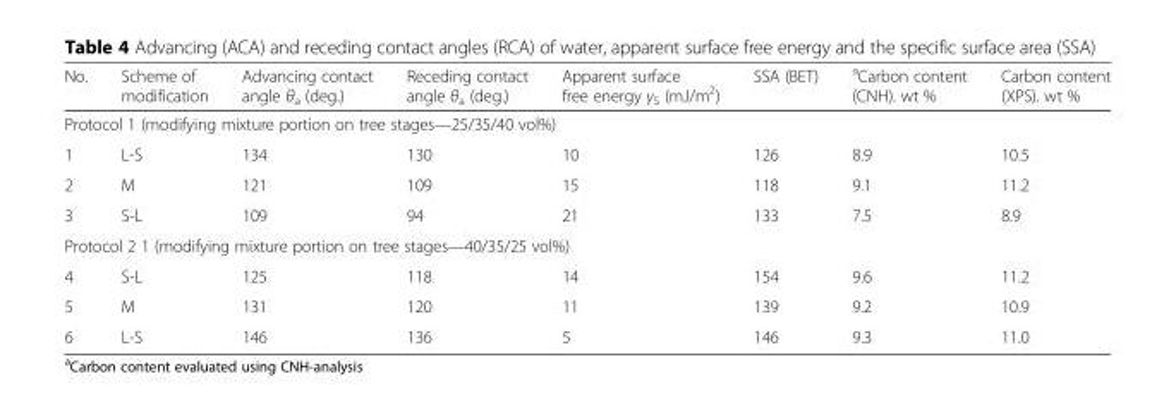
<table><thead><tr><td>No.</td><td>Scheme of modification</td><td>Advancing contact angle θ<sub>a</sub> (deg.)</td><td>Receding contact angle θ<sub>a</sub> (deg.)</td><td>Apparent surface free energy γ<sub>S</sub> (mJ/m<sup>2</sup>)</td><td>SSA (BET)</td><td><sup>a</sup>Carbon content (CNH). wt %</td><td>Carbon content (XPS). wt %</td></tr></thead><tbody><tr><td colspan="8">Protocol 1 (modifying mixture portion on tree stages—25/35/40 vol%)</td></tr><tr><td>1</td><td>L-S</td><td>134</td><td>130</td><td>10</td><td>126</td><td>8.9</td><td>10.5</td></tr><tr><td>2</td><td>M</td><td>121</td><td>109</td><td>15</td><td>118</td><td>9.1</td><td>11.2</td></tr><tr><td>3</td><td>S-L</td><td>109</td><td>94</td><td>21</td><td>133</td><td>7.5</td><td>8.9</td></tr><tr><td colspan="8">Protocol 2 1 (modifying mixture portion on tree stages—40/35/25 vol%)</td></tr><tr><td>4</td><td>S-L</td><td>125</td><td>118</td><td>14</td><td>154</td><td>9.6</td><td>11.2</td></tr><tr><td>5</td><td>M</td><td>131</td><td>120</td><td>11</td><td>139</td><td>9.2</td><td>10.9</td></tr><tr><td>6</td><td>L-S</td><td>146</td><td>136</td><td>5</td><td>146</td><td>9.3</td><td>11.0</td></tr></tbody></table>